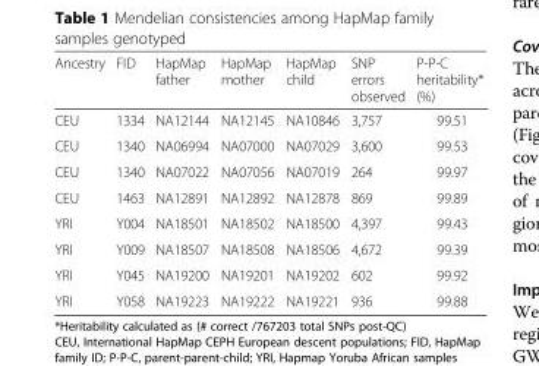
<table><thead><tr><td>Ancestry</td><td>FID</td><td>HapMap father</td><td>HapMap mother</td><td>HapMap child</td><td>SNP errors observed</td><td>P-P-C heritability* (%)</td></tr></thead><tbody><tr><td>CEU</td><td>1334</td><td>NA12144</td><td>NA12145</td><td>NA10846</td><td>3,757</td><td>99.51</td></tr><tr><td>CEU</td><td>1340</td><td>NA06994</td><td>NA07000</td><td>NA07029</td><td>3,600</td><td>99.53</td></tr><tr><td>CEU</td><td>1340</td><td>NA07022</td><td>NA07056</td><td>NA07019</td><td>264</td><td>99.97</td></tr><tr><td>CEU</td><td>1463</td><td>NA12891</td><td>NA12892</td><td>NA12878</td><td>869</td><td>99.89</td></tr><tr><td>YRI</td><td>Y004</td><td>NA18501</td><td>NA18502</td><td>NA18500</td><td>4,397</td><td>99.43</td></tr><tr><td>YRI</td><td>Y009</td><td>NA18507</td><td>NA18508</td><td>NA18506</td><td>4,672</td><td>99.39</td></tr><tr><td>YRI</td><td>Y045</td><td>NA19200</td><td>NA19201</td><td>NA19202</td><td>602</td><td>99.92</td></tr><tr><td>YRI</td><td>Y058</td><td>NA19223</td><td>NA19222</td><td>NA19221</td><td>936</td><td>99.88</td></tr></tbody></table>